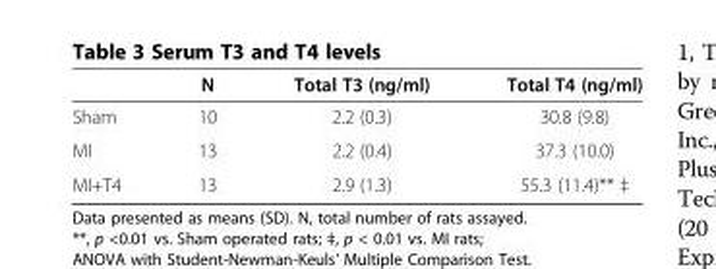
<table><thead><tr><td></td><td>N</td><td>Total T3 (ng/ml)</td><td>Total T4 (ng/ml)</td></tr></thead><tbody><tr><td>Sham</td><td>10</td><td>2.2 (0.3)</td><td>30.8 (9.8)</td></tr><tr><td>MI</td><td>13</td><td>2.2 (0.4)</td><td>37.3 (10.0)</td></tr><tr><td>MI+T4</td><td>13</td><td>2.9 (1.3)</td><td>55.3 (11.4)** ‡</td></tr></tbody></table>